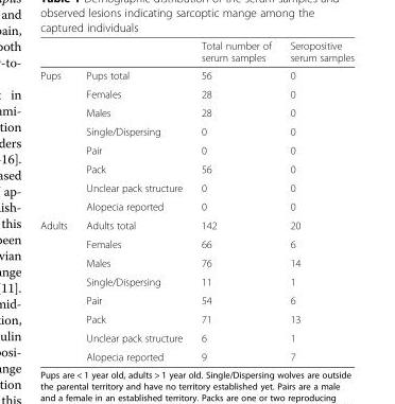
<table><thead><tr><td></td><td></td><td>Total number of serum samples</td><td>Seropositive serum samples</td></tr></thead><tbody><tr><td rowspan="8">Pups</td><td>Pups total</td><td>56</td><td>0</td></tr><tr><td>Females</td><td>28</td><td>0</td></tr><tr><td>Males</td><td>28</td><td>0</td></tr><tr><td>Single/Dispersing</td><td>0</td><td>0</td></tr><tr><td>Pair</td><td>0</td><td>0</td></tr><tr><td>Pack</td><td>56</td><td>0</td></tr><tr><td>Unclear pack structure</td><td>0</td><td>0</td></tr><tr><td>Alopecia reported</td><td>0</td><td>0</td></tr><tr><td rowspan="8">Adults</td><td>Adults total</td><td>142</td><td>20</td></tr><tr><td>Females</td><td>66</td><td>6</td></tr><tr><td>Males</td><td>76</td><td>14</td></tr><tr><td>Single/Dispersing</td><td>11</td><td>1</td></tr><tr><td>Pair</td><td>54</td><td>6</td></tr><tr><td>Pack</td><td>71</td><td>13</td></tr><tr><td>Unclear pack structure</td><td>6</td><td>1</td></tr><tr><td>Alopecia reported</td><td>9</td><td>7</td></tr></tbody></table>